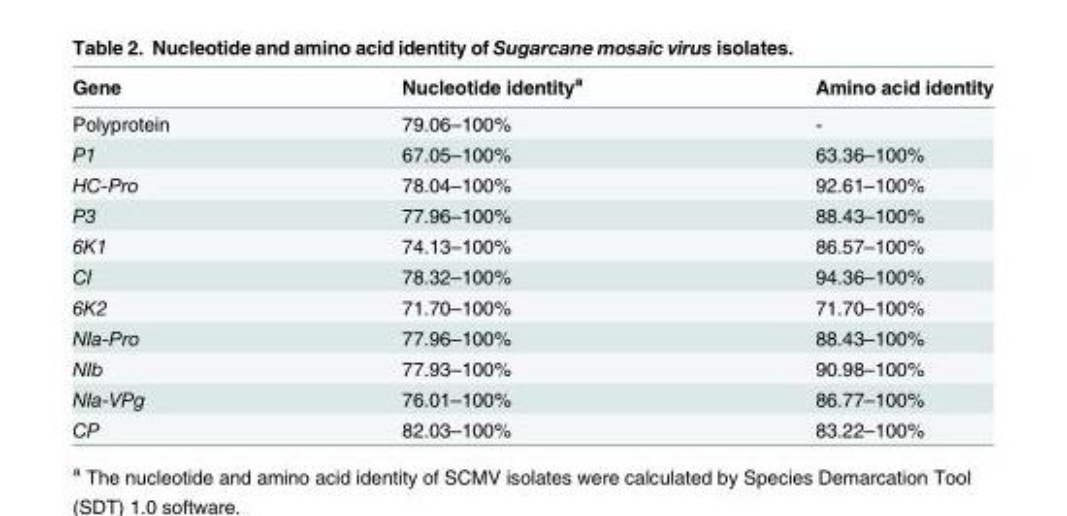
<table><thead><tr><td>Gene</td><td>Nucleotide identity<sup>a</sup></td><td>Amino acid identity</td></tr></thead><tbody><tr><td>Polyprotein</td><td>79.06–100%</td><td>-</td></tr><tr><td>P1</td><td>67.05–100%</td><td>63.36–100%</td></tr><tr><td>HC-Pro</td><td>78.04–100%</td><td>92.61–100%</td></tr><tr><td>P3</td><td>77.96–100%</td><td>88.43–100%</td></tr><tr><td>6K1</td><td>74.13–100%</td><td>86.57–100%</td></tr><tr><td>CI</td><td>78.32–100%</td><td>94.36–100%</td></tr><tr><td>6K2</td><td>71.70–100%</td><td>71.70–100%</td></tr><tr><td>NIa-Pro</td><td>77.96–100%</td><td>88.43–100%</td></tr><tr><td>NIb</td><td>77.93–100%</td><td>90.98–100%</td></tr><tr><td>NIa-VPg</td><td>76.01–100%</td><td>86.77–100%</td></tr><tr><td>CP</td><td>82.03–100%</td><td>83.22–100%</td></tr></tbody></table>